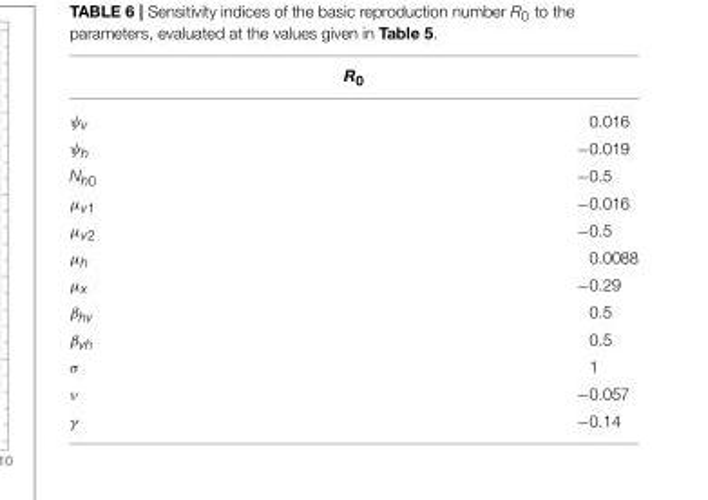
<table><thead><tr><td colspan="2">R<sub>0</sub></td></tr><tr><td>ψv</td><td>0.016</td></tr></thead><tbody><tr><td>ψh</td><td>−0.019</td></tr><tr><td>Nh0</td><td>−0.5</td></tr><tr><td>µv1</td><td>−0.016</td></tr><tr><td>µv2</td><td>−0.5</td></tr><tr><td>µh</td><td>0.0088</td></tr><tr><td>µx</td><td>−0.29</td></tr><tr><td>βhv</td><td>0.5</td></tr><tr><td>βvh</td><td>0.5</td></tr><tr><td>σ</td><td>1</td></tr><tr><td>ν</td><td>−0.057</td></tr><tr><td>γ</td><td>−0.14</td></tr></tbody></table>